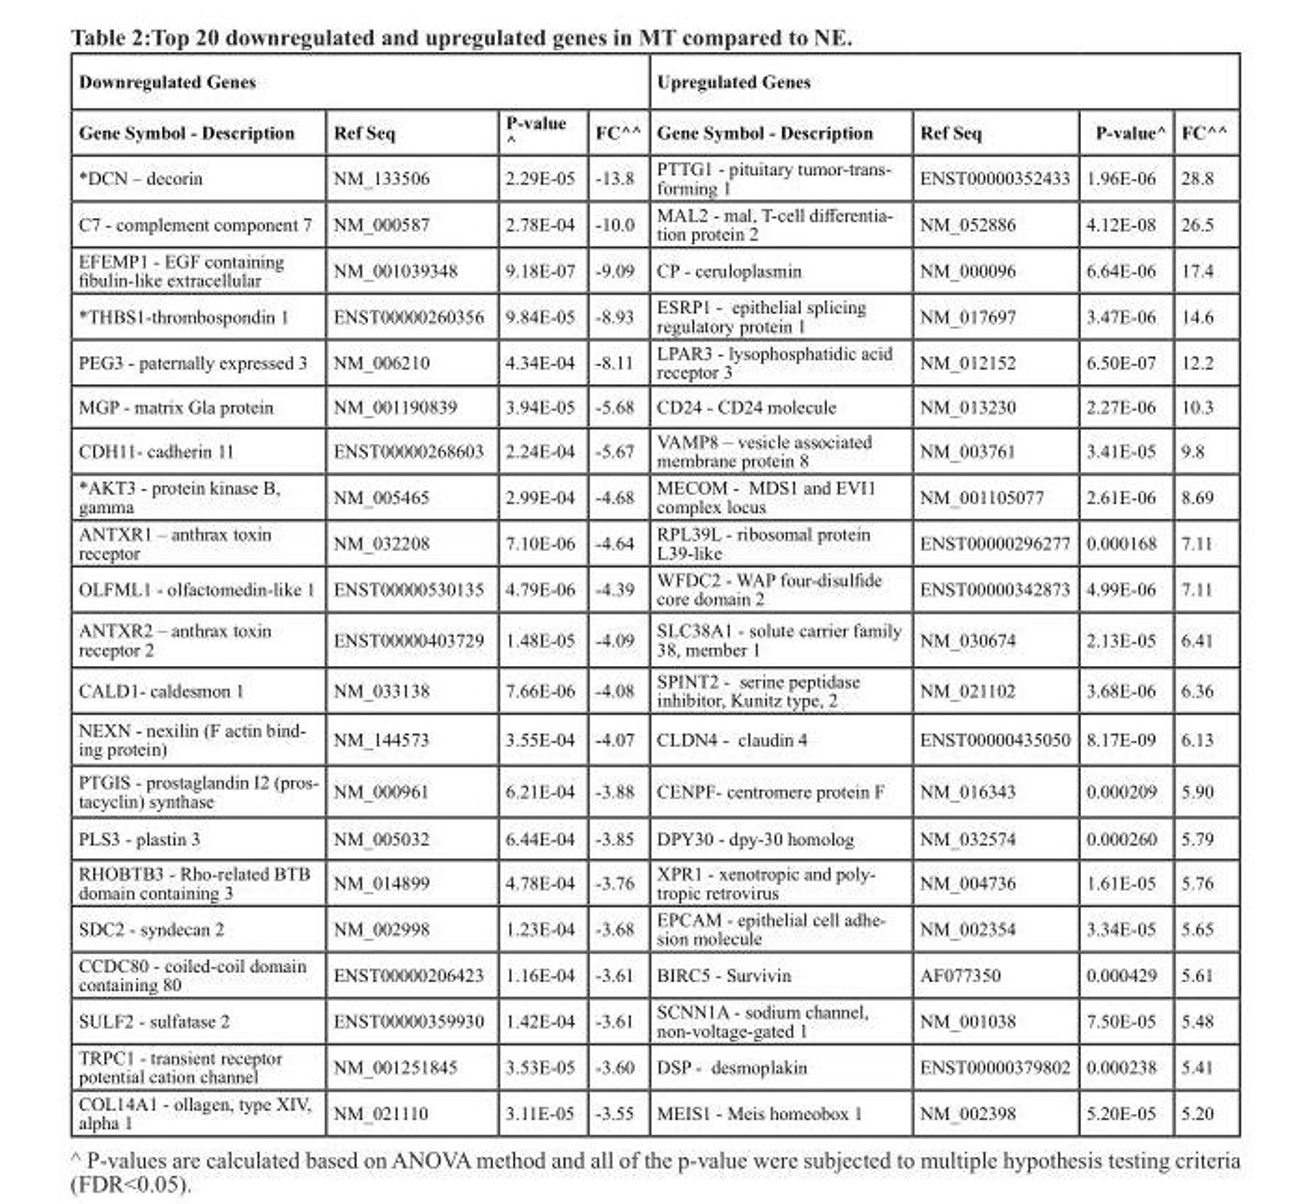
<table><thead><tr><td colspan="4">Downregulated Genes</td><td colspan="4">Upregulated Genes</td></tr><tr><td>Gene Symbol - Description</td><td>Ref Seq</td><td>P-value ^</td><td>FC^^</td><td>Gene Symbol - Description</td><td>Ref Seq</td><td>P-value^</td><td>FC^^</td></tr></thead><tbody><tr><td>*DCN – decorin</td><td>NM_133506</td><td>2.29E-05</td><td>-13.8</td><td>PTTG1 - pituitary tumor-trans- forming 1</td><td>ENST00000352433</td><td>1.96E-06</td><td>28.8</td></tr><tr><td>C7 - complement component 7</td><td>NM_000587</td><td>2.78E-04</td><td>-10.0</td><td>MAL2 - mal, T-cell differentia- tion protein 2</td><td>NM_052886</td><td>4.12E-08</td><td>26.5</td></tr><tr><td>EFEMP1 - EGF containing fibulin-like extracellular</td><td>NM_001039348</td><td>9.18E-07</td><td>-9.09</td><td>CP - ceruloplasmin</td><td>NM_000096</td><td>6.64E-06</td><td>17.4</td></tr><tr><td>*THBS1-thrombospondin 1</td><td>ENST00000260356</td><td>9.84E-05</td><td>-8.93</td><td>ESRP1 - epithelial splicing regulatory protein 1</td><td>NM_017697</td><td>3.47E-06</td><td>14.6</td></tr><tr><td>PEG3 - paternally expressed 3</td><td>NM_006210</td><td>4.34E-04</td><td>-8.11</td><td>LPAR3 - lysophosphatidic acid receptor 3</td><td>NM_012152</td><td>6.50E-07</td><td>12.2</td></tr><tr><td>MGP - matrix Gla protein</td><td>NM_001190839</td><td>3.94E-05</td><td>-5.68</td><td>CD24 - CD24 molecule</td><td>NM_013230</td><td>2.27E-06</td><td>10.3</td></tr><tr><td>CDH11- cadherin 11</td><td>ENST00000268603</td><td>2.24E-04</td><td>-5.67</td><td>VAMP8 – vesicle associated membrane protein 8</td><td>NM_003761</td><td>3.41E-05</td><td>9.8</td></tr><tr><td>*AKT3 - protein kinase B, gamma</td><td>NM_005465</td><td>2.99E-04</td><td>-4.68</td><td>MECOM - MDS1 and EVI1 complex locus</td><td>NM_001105077</td><td>2.61E-06</td><td>8.69</td></tr><tr><td>ANTXR1 – anthrax toxin receptor</td><td>NM_032208</td><td>7.10E-06</td><td>-4.64</td><td>RPL39L - ribosomal protein L39-like</td><td>ENST00000296277</td><td>0.000168</td><td>7.11</td></tr><tr><td>OLFML1 - olfactomedin-like 1</td><td>ENST00000530135</td><td>4.79E-06</td><td>-4.39</td><td>WFDC2 - WAP four-disulfide core domain 2</td><td>ENST00000342873</td><td>4.99E-06</td><td>7.11</td></tr><tr><td>ANTXR2 – anthrax toxin receptor 2</td><td>ENST00000403729</td><td>1.48E-05</td><td>-4.09</td><td>SLC38A1 - solute carrier family 38, member 1</td><td>NM_030674</td><td>2.13E-05</td><td>6.41</td></tr><tr><td>CALD1- caldesmon 1</td><td>NM_033138</td><td>7.66E-06</td><td>-4.08</td><td>SPINT2 - serine peptidase inhibitor, Kunitz type, 2</td><td>NM_021102</td><td>3.68E-06</td><td>6.36</td></tr><tr><td>NEXN - nexilin (F actin bind- ing protein)</td><td>NM_144573</td><td>3.55E-04</td><td>-4.07</td><td>CLDN4 - claudin 4</td><td>ENST00000435050</td><td>8.17E-09</td><td>6.13</td></tr><tr><td>PTGIS - prostaglandin I2 (pros- tacyclin) synthase</td><td>NM_000961</td><td>6.21E-04</td><td>-3.88</td><td>CENPF- centromere protein F</td><td>NM_016343</td><td>0.000209</td><td>5.90</td></tr><tr><td>PLS3 - plastin 3</td><td>NM_005032</td><td>6.44E-04</td><td>-3.85</td><td>DPY30 - dpy-30 homolog</td><td>NM_032574</td><td>0.000260</td><td>5.79</td></tr><tr><td>RHOBTB3 - Rho-related BTB domain containing 3</td><td>NM_014899</td><td>4.78E-04</td><td>-3.76</td><td>XPR1 - xenotropic and poly- tropic retrovirus</td><td>NM_004736</td><td>1.61E-05</td><td>5.76</td></tr><tr><td>SDC2 - syndecan 2</td><td>NM_002998</td><td>1.23E-04</td><td>-3.68</td><td>EPCAM - epithelial cell adhe- sion molecule</td><td>NM_002354</td><td>3.34E-05</td><td>5.65</td></tr><tr><td>CCDC80 - coiled-coil domain containing 80</td><td>ENST00000206423</td><td>1.16E-04</td><td>-3.61</td><td>BIRC5 - Survivin</td><td>AF077350</td><td>0.000429</td><td>5.61</td></tr><tr><td>SULF2 - sulfatase 2</td><td>ENST00000359930</td><td>1.42E-04</td><td>-3.61</td><td>SCNN1A - sodium channel, non-voltage-gated 1</td><td>NM_001038</td><td>7.50E-05</td><td>5.48</td></tr><tr><td>TRPC1 - transient receptor potential cation channel</td><td>NM_001251845</td><td>3.53E-05</td><td>-3.60</td><td>DSP - desmoplakin</td><td>ENST00000379802</td><td>0.000238</td><td>5.41</td></tr><tr><td>COL14A1 - ollagen, type XIV, alpha 1</td><td>NM_021110</td><td>3.11E-05</td><td>-3.55</td><td>MEIS1 - Meis homeobox 1</td><td>NM_002398</td><td>5.20E-05</td><td>5.20</td></tr></tbody></table>